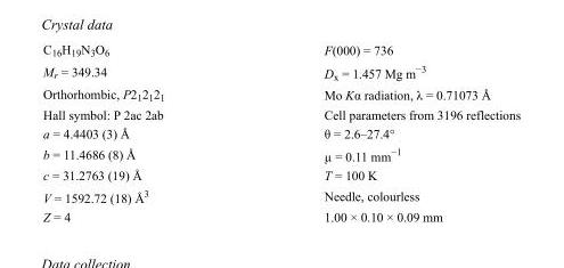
<table><tbody><tr><td>C<sub>16</sub>H<sub>19</sub>N<sub>3</sub>O<sub>6</sub></td><td>F(000) = 736</td></tr><tr><td>M<sub>r</sub> = 349.34</td><td>D<sub>x</sub> = 1.457 Mg m<sup>−3</sup></td></tr><tr><td>Orthorhombic, P2<sub>1</sub>2<sub>1</sub>2<sub>1</sub></td><td>Mo Kα radiation, λ = 0.71073 Å</td></tr><tr><td>Hall symbol: P 2ac 2ab</td><td>Cell parameters from 3196 reflections</td></tr><tr><td>a = 4.4403 (3) Å</td><td>θ = 2.6–27.4°</td></tr><tr><td>b = 11.4686 (8) Å</td><td>µ = 0.11 mm<sup>−1</sup></td></tr><tr><td>c = 31.2763 (19) Å</td><td>T = 100 K</td></tr><tr><td>V = 1592.72 (18) Å<sup>3</sup></td><td>Needle, colourless</td></tr><tr><td>Z = 4</td><td>1.00 × 0.10 × 0.09 mm</td></tr></tbody></table>